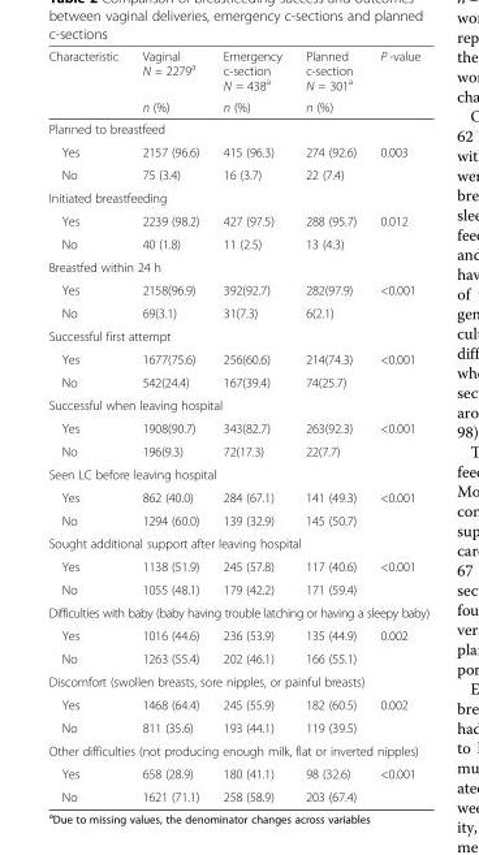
<table><thead><tr><td rowspan="2">Characteristic</td><td rowspan="2">Vaginal N = 2279<sup>a</sup> n (%)</td><td rowspan="2">Emergency c-section N = 438<sup>a</sup> n (%)</td><td rowspan="2">Planned c-section N = 301<sup>a</sup> n (%)</td><td rowspan="2">P -value</td></tr><tr></tr></thead><tbody><tr><td colspan="5">Planned to breastfeed</td></tr><tr><td>Yes</td><td>2157 (96.6)</td><td>415 (96.3)</td><td>274 (92.6)</td><td rowspan="2">0.003</td></tr><tr><td>No</td><td>75 (3.4)</td><td>16 (3.7)</td><td>22 (7.4)</td></tr><tr><td colspan="5">Initiated breastfeeding</td></tr><tr><td>Yes</td><td>2239 (98.2)</td><td>427 (97.5)</td><td>288 (95.7)</td><td rowspan="2">0.012</td></tr><tr><td>No</td><td>40 (1.8)</td><td>11 (2.5)</td><td>13 (4.3)</td></tr><tr><td colspan="5">Breastfed within 24 h</td></tr><tr><td>Yes</td><td>2158(96.9)</td><td>392(92.7)</td><td>282(97.9)</td><td rowspan="2">&lt;0.001</td></tr><tr><td>No</td><td>69(3.1)</td><td>31(7.3)</td><td>6(2.1)</td></tr><tr><td colspan="5">Successful first attempt</td></tr><tr><td>Yes</td><td>1677(75.6)</td><td>256(60.6)</td><td>214(74.3)</td><td rowspan="2">&lt;0.001</td></tr><tr><td>No</td><td>542(24.4)</td><td>167(39.4)</td><td>74(25.7)</td></tr><tr><td colspan="5">Successful when leaving hospital</td></tr><tr><td>Yes</td><td>1908(90.7)</td><td>343(82.7)</td><td>263(92.3)</td><td rowspan="2">&lt;0.001</td></tr><tr><td>No</td><td>196(9.3)</td><td>72(17.3)</td><td>22(7.7)</td></tr><tr><td colspan="5">Seen LC before leaving hospital</td></tr><tr><td>Yes</td><td>862 (40.0)</td><td>284 (67.1)</td><td>141 (49.3)</td><td rowspan="2">&lt;0.001</td></tr><tr><td>No</td><td>1294 (60.0)</td><td>139 (32.9)</td><td>145 (50.7)</td></tr><tr><td colspan="5">Sought additional support after leaving hospital</td></tr><tr><td>Yes</td><td>1138 (51.9)</td><td>245 (57.8)</td><td>117 (40.6)</td><td rowspan="2">&lt;0.001</td></tr><tr><td>No</td><td>1055 (48.1)</td><td>179 (42.2)</td><td>171 (59.4)</td></tr><tr><td colspan="5">Difficulties with baby (baby having trouble latching or having a sleepy baby)</td></tr><tr><td>Yes</td><td>1016 (44.6)</td><td>236 (53.9)</td><td>135 (44.9)</td><td rowspan="2">0.002</td></tr><tr><td>No</td><td>1263 (55.4)</td><td>202 (46.1)</td><td>166 (55.1)</td></tr><tr><td colspan="5">Discomfort (swollen breasts, sore nipples, or painful breasts)</td></tr><tr><td>Yes</td><td>1468 (64.4)</td><td>245 (55.9)</td><td>182 (60.5)</td><td rowspan="2">0.002</td></tr><tr><td>No</td><td>811 (35.6)</td><td>193 (44.1)</td><td>119 (39.5)</td></tr><tr><td colspan="5">Other difficulties (not producing enough milk, flat or inverted nipples)</td></tr><tr><td>Yes</td><td>658 (28.9)</td><td>180 (41.1)</td><td>98 (32.6)</td><td rowspan="2">&lt;0.001</td></tr><tr><td>No</td><td>1621 (71.1)</td><td>258 (58.9)</td><td>203 (67.4)</td></tr></tbody></table>